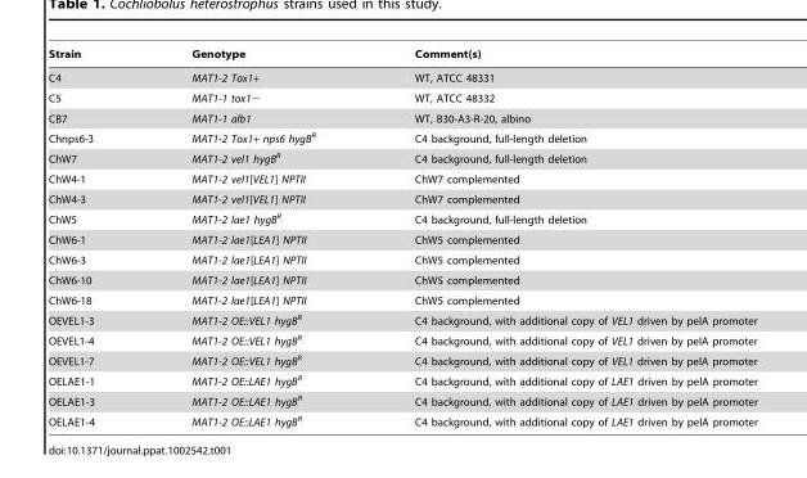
<table><thead><tr><td>Strain</td><td>Genotype</td><td>Comment(s)</td></tr></thead><tbody><tr><td>C4</td><td>MAT1-2 Tox1+</td><td>WT, ATCC 48331</td></tr><tr><td>C5</td><td>MAT1-1 tox1−</td><td>WT, ATCC 48332</td></tr><tr><td>CB7</td><td>MAT1-1 alb1</td><td>WT, B30-A3-R-20, albino</td></tr><tr><td>Chnps6-3</td><td>MAT1-2 Tox1+ nps6 hygB<sup>R</sup></td><td>C4 background, full-length deletion</td></tr><tr><td>ChW7</td><td>MAT1-2 vel1 hygB<sup>R</sup></td><td>C4 background, full-length deletion</td></tr><tr><td>ChW4-1</td><td>MAT1-2 vel1[VEL1] NPTII</td><td>ChW7 complemented</td></tr><tr><td>ChW4-3</td><td>MAT1-2 vel1[VEL1] NPTII</td><td>ChW7 complemented</td></tr><tr><td>ChW5</td><td>MAT1-2 lae1 hygB<sup>R</sup></td><td>C4 background, full-length deletion</td></tr><tr><td>ChW6-1</td><td>MAT1-2 lae1[LEA1] NPTII</td><td>ChW5 complemented</td></tr><tr><td>ChW6-3</td><td>MAT1-2 lae1[LEA1] NPTII</td><td>ChW5 complemented</td></tr><tr><td>ChW6-10</td><td>MAT1-2 lae1[LEA1] NPTII</td><td>ChW5 complemented</td></tr><tr><td>ChW6-18</td><td>MAT1-2 lae1[LEA1] NPTII</td><td>ChW5 complemented</td></tr><tr><td>OEVEL1-3</td><td>MAT1-2 OE::VEL1 hygB<sup>R</sup></td><td>C4 background, with additional copy of VEL1 driven by pelA promoter</td></tr><tr><td>OEVEL1-4</td><td>MAT1-2 OE::VEL1 hygB<sup>R</sup></td><td>C4 background, with additional copy of VEL1 driven by pelA promoter</td></tr><tr><td>OEVEL1-7</td><td>MAT1-2 OE::VEL1 hygB<sup>R</sup></td><td>C4 background, with additional copy of VEL1 driven by pelA promoter</td></tr><tr><td>OELAE1-1</td><td>MAT1-2 OE::LAE1 hygB<sup>R</sup></td><td>C4 background, with additional copy of LAE1 driven by pelA promoter</td></tr><tr><td>OELAE1-3</td><td>MAT1-2 OE::LAE1 hygB<sup>R</sup></td><td>C4 background, with additional copy of LAE1 driven by pelA promoter</td></tr><tr><td>OELAE1-4</td><td>MAT1-2 OE::LAE1 hygB<sup>R</sup></td><td>C4 background, with additional copy of LAE1 driven by pelA promoter</td></tr></tbody></table>